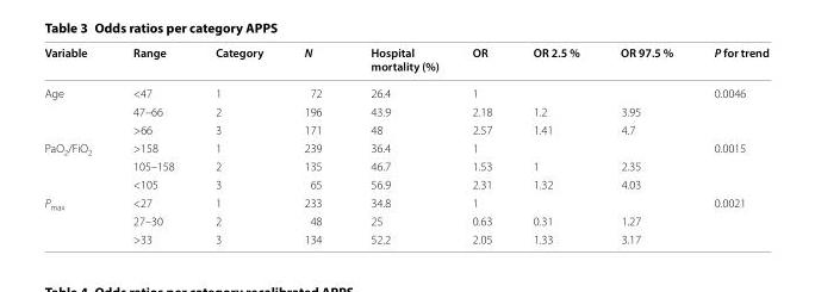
<table><thead><tr><td>Variable</td><td>Range</td><td>Category</td><td>N</td><td>Hospital mortality (%)</td><td>OR</td><td>OR 2.5 %</td><td>OR 97.5 %</td><td>P for trend</td></tr></thead><tbody><tr><td rowspan="3">Age</td><td>&lt;47</td><td>1</td><td>72</td><td>26.4</td><td>1</td><td></td><td></td><td rowspan="3">0.0046</td></tr><tr><td>47–66</td><td>2</td><td>196</td><td>43.9</td><td>2.18</td><td>1.2</td><td>3.95</td></tr><tr><td>&gt;66</td><td>3</td><td>171</td><td>48</td><td>2.57</td><td>1.41</td><td>4.7</td></tr><tr><td rowspan="3">PaO<sub>2</sub>/FiO<sub>2</sub></td><td>&gt;158</td><td>1</td><td>239</td><td>36.4</td><td>1</td><td></td><td></td><td rowspan="3">0.0015</td></tr><tr><td>105–158</td><td>2</td><td>135</td><td>46.7</td><td>1.53</td><td>1</td><td>2.35</td></tr><tr><td>&lt;105</td><td>3</td><td>65</td><td>56.9</td><td>2.31</td><td>1.32</td><td>4.03</td></tr><tr><td rowspan="3">P<sub>max</sub></td><td>&lt;27</td><td>1</td><td>233</td><td>34.8</td><td>1</td><td></td><td></td><td rowspan="3">0.0021</td></tr><tr><td>27–30</td><td>2</td><td>48</td><td>25</td><td>0.63</td><td>0.31</td><td>1.27</td></tr><tr><td>&gt;33</td><td>3</td><td>134</td><td>52.2</td><td>2.05</td><td>1.33</td><td>3.17</td></tr></tbody></table>